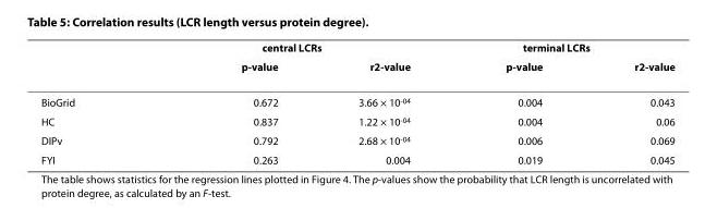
<table><thead><tr><td rowspan="2"></td><td colspan="2">central LCRs</td><td colspan="2">terminal LCRs</td></tr><tr><td>p-value</td><td>r<sup>2</sup>-value</td><td>p-value</td><td>r<sup>2</sup>-value</td></tr></thead><tbody><tr><td>BioGrid</td><td>0.672</td><td>3.66 × 10<sup>-04</sup></td><td>0.004</td><td>0.043</td></tr><tr><td>HC</td><td>0.837</td><td>1.22 × 10<sup>-04</sup></td><td>0.004</td><td>0.06</td></tr><tr><td>DIPv</td><td>0.792</td><td>2.68 × 10<sup>-04</sup></td><td>0.006</td><td>0.069</td></tr><tr><td>FYI</td><td>0.263</td><td>0.004</td><td>0.019</td><td>0.045</td></tr></tbody></table>